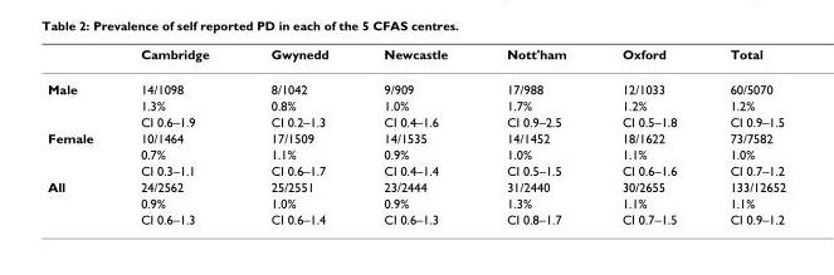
<table><thead><tr><td></td><td>Cambridge</td><td>Gwynedd</td><td>Newcastle</td><td>Nott&#x27;ham</td><td>Oxford</td><td>Total</td></tr></thead><tbody><tr><td rowspan="3">Male</td><td>14/1098</td><td>8/1042</td><td>9/909</td><td>17/988</td><td>12/1033</td><td>60/5070</td></tr><tr><td>1.3%</td><td>0.8%</td><td>1.0%</td><td>1.7%</td><td>1.2%</td><td>1.2%</td></tr><tr><td>CI 0.6–1.9</td><td>CI 0.2–1.3</td><td>CI 0.4–1.6</td><td>CI 0.9–2.5</td><td>CI 0.5–1.8</td><td>CI 0.9–1.5</td></tr><tr><td rowspan="3">Female</td><td>10/1464</td><td>17/1509</td><td>14/1535</td><td>14/1452</td><td>18/1622</td><td>73/7582</td></tr><tr><td>0.7%</td><td>1.1%</td><td>0.9%</td><td>1.0%</td><td>1.1%</td><td>1.0%</td></tr><tr><td>CI 0.3–1.1</td><td>CI 0.6–1.7</td><td>CI 0.4–1.4</td><td>CI 0.5–1.5</td><td>CI 0.6–1.6</td><td>CI 0.7–1.2</td></tr><tr><td rowspan="3">All</td><td>24/2562</td><td>25/2551</td><td>23/2444</td><td>31/2440</td><td>30/2655</td><td>133/12652</td></tr><tr><td>0.9%</td><td>1.0%</td><td>0.9%</td><td>1.3%</td><td>1.1%</td><td>1.1%</td></tr><tr><td>CI 0.6–1.3</td><td>CI 0.6–1.4</td><td>CI 0.6–1.3</td><td>CI 0.8–1.7</td><td>CI 0.7–1.5</td><td>CI 0.9–1.2</td></tr></tbody></table>